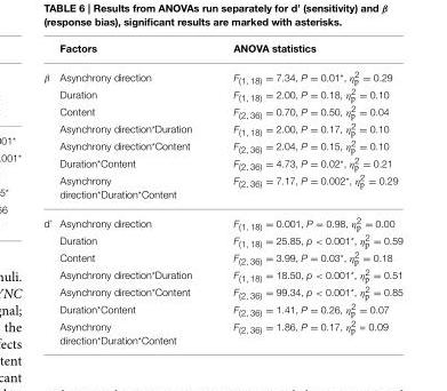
<table><thead><tr><td></td><td>Factors</td><td>ANOVA statistics</td></tr></thead><tbody><tr><td rowspan="7">β</td><td>Asynchrony direction</td><td>F<sub>(1, 18)</sub> = 7.34, P = 0.01*, η<sup>2</sup><sub>p</sub> = 0.29</td></tr><tr><td>Duration</td><td>F<sub>(1, 18)</sub> = 2.00, P = 0.18, η<sup>2</sup><sub>p</sub> = 0.10</td></tr><tr><td>Content</td><td>F<sub>(2, 36)</sub> = 0.70, P = 0.50, η<sup>2</sup><sub>p</sub> = 0.04</td></tr><tr><td>Asynchrony direction*Duration</td><td>F<sub>(1, 18)</sub> = 2.00, P = 0.17, η<sup>2</sup><sub>p</sub> = 0.10</td></tr><tr><td>Asynchrony direction*Content</td><td>F<sub>(2, 36)</sub> = 2.04, P = 0.15, η<sup>2</sup><sub>p</sub> = 0.10</td></tr><tr><td>Duration*Content</td><td>F<sub>(2, 36)</sub> = 4.73, P = 0.02*, η<sup>2</sup><sub>p</sub> = 0.21</td></tr><tr><td>Asynchrony direction*Duration*Content</td><td>F<sub>(2, 36)</sub> = 7.17, P = 0.002*, η<sup>2</sup><sub>p</sub> = 0.29</td></tr><tr><td rowspan="7">d’</td><td>Asynchrony direction</td><td>F<sub>(1, 18)</sub> = 0.001, P = 0.98, η<sup>2</sup><sub>p</sub> = 0.00</td></tr><tr><td>Duration</td><td>F<sub>(1, 18)</sub> = 25.85, p &lt; 0.001*, η<sup>2</sup><sub>p</sub> = 0.59</td></tr><tr><td>Content</td><td>F<sub>(2, 36)</sub> = 3.99, P = 0.03*, η<sup>2</sup><sub>p</sub> = 0.18</td></tr><tr><td>Asynchrony direction*Duration</td><td>F<sub>(1, 18)</sub> = 18.50, p &lt; 0.001*, η<sup>2</sup><sub>p</sub> = 0.51</td></tr><tr><td>Asynchrony direction*Content</td><td>F<sub>(2, 36)</sub> = 99.34, p &lt; 0.001*, η<sup>2</sup><sub>p</sub> = 0.85</td></tr><tr><td>Duration*Content</td><td>F<sub>(2, 36)</sub> = 1.41, P = 0.26, η<sup>2</sup><sub>p</sub> = 0.07</td></tr><tr><td>Asynchrony direction*Duration*Content</td><td>F<sub>(2, 36)</sub> = 1.86, P = 0.17, η<sup>2</sup><sub>p</sub> = 0.09</td></tr></tbody></table>